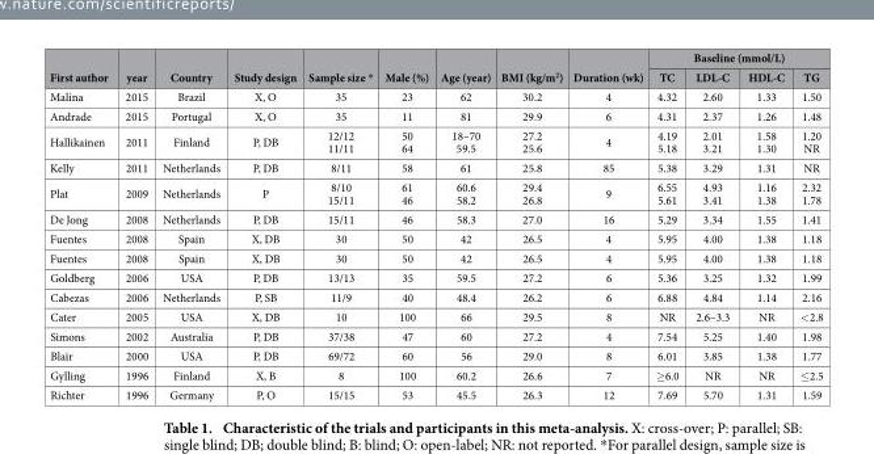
<table><thead><tr><td rowspan="2">First author</td><td rowspan="2">year</td><td rowspan="2">Country</td><td rowspan="2">Study design</td><td rowspan="2">Sample size *</td><td rowspan="2">Male (%)</td><td rowspan="2">Age (year)</td><td rowspan="2">BMI (kg/m<sup>2</sup>)</td><td rowspan="2">Duration (wk)</td><td colspan="4">Baseline (mmol/L)</td></tr><tr><td>TC</td><td>LDL-C</td><td>HDL-C</td><td>TG</td></tr></thead><tbody><tr><td>Malina</td><td>2015</td><td>Brazil</td><td>X, O</td><td>35</td><td>23</td><td>62</td><td>30.2</td><td>4</td><td>4.32</td><td>2.60</td><td>1.33</td><td>1.50</td></tr><tr><td>Andrade</td><td>2015</td><td>Portugal</td><td>X, O</td><td>35</td><td>11</td><td>81</td><td>29.9</td><td>6</td><td>4.31</td><td>2.37</td><td>1.26</td><td>1.48</td></tr><tr><td>Hallikainen</td><td>2011</td><td>Finland</td><td>P, DB</td><td>12/12 11/11</td><td>50 64</td><td>18–70 59.5</td><td>27.2 25.6</td><td>4</td><td>4.19 5.18</td><td>2.01 3.21</td><td>1.58 1.30</td><td>1.20 NR</td></tr><tr><td>Kelly</td><td>2011</td><td>Netherlands</td><td>P, DB</td><td>8/11</td><td>58</td><td>61</td><td>25.8</td><td>85</td><td>5.38</td><td>3.29</td><td>1.31</td><td>NR</td></tr><tr><td>Plat</td><td>2009</td><td>Netherlands</td><td>P</td><td>8/10 15/11</td><td>61 46</td><td>60.6 58.2</td><td>29.4 26.8</td><td>9</td><td>6.55 5.61</td><td>4.93 3.41</td><td>1.16 1.38</td><td>2.32 1.78</td></tr><tr><td>De Jong</td><td>2008</td><td>Netherlands</td><td>P, DB</td><td>15/11</td><td>46</td><td>58.3</td><td>27.0</td><td>16</td><td>5.29</td><td>3.34</td><td>1.55</td><td>1.41</td></tr><tr><td>Fuentes</td><td>2008</td><td>Spain</td><td>X, DB</td><td>30</td><td>50</td><td>42</td><td>26.5</td><td>4</td><td>5.95</td><td>4.00</td><td>1.38</td><td>1.18</td></tr><tr><td>Fuentes</td><td>2008</td><td>Spain</td><td>X, DB</td><td>30</td><td>50</td><td>42</td><td>26.5</td><td>4</td><td>5.95</td><td>4.00</td><td>1.38</td><td>1.18</td></tr><tr><td>Goldberg</td><td>2006</td><td>USA</td><td>P, DB</td><td>13/13</td><td>35</td><td>59.5</td><td>27.2</td><td>6</td><td>5.36</td><td>3.25</td><td>1.32</td><td>1.99</td></tr><tr><td>Cabezas</td><td>2006</td><td>Netherlands</td><td>P, SB</td><td>11/9</td><td>40</td><td>48.4</td><td>26.2</td><td>6</td><td>6.88</td><td>4.84</td><td>1.14</td><td>2.16</td></tr><tr><td>Cater</td><td>2005</td><td>USA</td><td>X, DB</td><td>10</td><td>100</td><td>66</td><td>29.5</td><td>8</td><td>NR</td><td>2.6–3.3</td><td>NR</td><td>&lt; 2.8</td></tr><tr><td>Simons</td><td>2002</td><td>Australia</td><td>P, DB</td><td>37/38</td><td>47</td><td>60</td><td>27.2</td><td>4</td><td>7.54</td><td>5.25</td><td>1.40</td><td>1.98</td></tr><tr><td>Blair</td><td>2000</td><td>USA</td><td>P, DB</td><td>69/72</td><td>60</td><td>56</td><td>29.0</td><td>8</td><td>6.01</td><td>3.85</td><td>1.38</td><td>1.77</td></tr><tr><td>Gylling</td><td>1996</td><td>Finland</td><td>X, B</td><td>8</td><td>100</td><td>60.2</td><td>26.6</td><td>7</td><td>≥ 6.0</td><td>NR</td><td>NR</td><td>≤ 2.5</td></tr><tr><td>Richter</td><td>1996</td><td>Germany</td><td>P, O</td><td>15/15</td><td>53</td><td>45.5</td><td>26.3</td><td>12</td><td>7.69</td><td>5.70</td><td>1.31</td><td>1.59</td></tr></tbody></table>